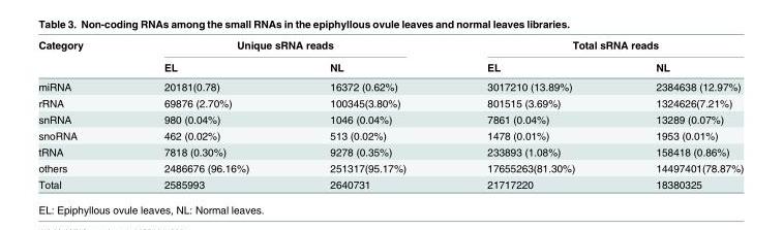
<table><thead><tr><td rowspan="2">Category</td><td colspan="2">Unique sRNA reads</td><td colspan="2">Total sRNA reads</td></tr><tr><td>EL</td><td>NL</td><td>EL</td><td>NL</td></tr></thead><tbody><tr><td>miRNA</td><td>20181(0.78)</td><td>16372 (0.62%)</td><td>3017210 (13.89%)</td><td>2384638 (12.97%)</td></tr><tr><td>rRNA</td><td>69876 (2.70%)</td><td>100345(3.80%)</td><td>801515 (3.69%)</td><td>1324626(7.21%)</td></tr><tr><td>snRNA</td><td>980 (0.04%)</td><td>1046 (0.04%)</td><td>7861 (0.04%)</td><td>13289 (0.07%)</td></tr><tr><td>snoRNA</td><td>462 (0.02%)</td><td>513 (0.02%)</td><td>1478 (0.01%)</td><td>1953 (0.01%)</td></tr><tr><td>tRNA</td><td>7818 (0.30%)</td><td>9278 (0.35%)</td><td>233893 (1.08%)</td><td>158418 (0.86%)</td></tr><tr><td>others</td><td>2486676 (96.16%)</td><td>251317(95.17%)</td><td>17655263(81.30%)</td><td>14497401(78.87%)</td></tr><tr><td>Total</td><td>2585993</td><td>2640731</td><td>21717220</td><td>18380325</td></tr></tbody></table>